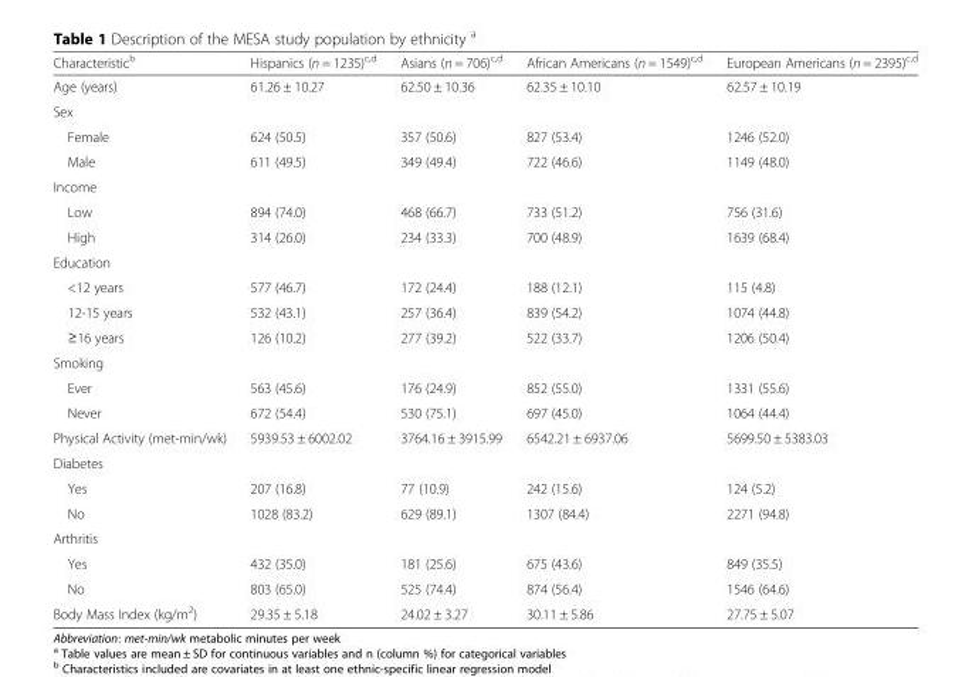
<table><thead><tr><td>Characteristic<sup>b</sup></td><td>Hispanics (n = 1235)<sup>c,d</sup></td><td>Asians (n = 706)<sup>c,d</sup></td><td>African Americans (n = 1549)<sup>c,d</sup></td><td>European Americans (n = 2395)<sup>c,d</sup></td></tr></thead><tbody><tr><td>Age (years)</td><td>61.26 ± 10.27</td><td>62.50 ± 10.36</td><td>62.35 ± 10.10</td><td>62.57 ± 10.19</td></tr><tr><td colspan="5">Sex</td></tr><tr><td>Female</td><td>624 (50.5)</td><td>357 (50.6)</td><td>827 (53.4)</td><td>1246 (52.0)</td></tr><tr><td>Male</td><td>611 (49.5)</td><td>349 (49.4)</td><td>722 (46.6)</td><td>1149 (48.0)</td></tr><tr><td colspan="5">Income</td></tr><tr><td>Low</td><td>894 (74.0)</td><td>468 (66.7)</td><td>733 (51.2)</td><td>756 (31.6)</td></tr><tr><td>High</td><td>314 (26.0)</td><td>234 (33.3)</td><td>700 (48.9)</td><td>1639 (68.4)</td></tr><tr><td colspan="5">Education</td></tr><tr><td>&lt;12 years</td><td>577 (46.7)</td><td>172 (24.4)</td><td>188 (12.1)</td><td>115 (4.8)</td></tr><tr><td>12-15 years</td><td>532 (43.1)</td><td>257 (36.4)</td><td>839 (54.2)</td><td>1074 (44.8)</td></tr><tr><td>≥16 years</td><td>126 (10.2)</td><td>277 (39.2)</td><td>522 (33.7)</td><td>1206 (50.4)</td></tr><tr><td colspan="5">Smoking</td></tr><tr><td>Ever</td><td>563 (45.6)</td><td>176 (24.9)</td><td>852 (55.0)</td><td>1331 (55.6)</td></tr><tr><td>Never</td><td>672 (54.4)</td><td>530 (75.1)</td><td>697 (45.0)</td><td>1064 (44.4)</td></tr><tr><td>Physical Activity (met-min/wk)</td><td>5939.53 ± 6002.02</td><td>3764.16 ± 3915.99</td><td>6542.21 ± 6937.06</td><td>5699.50 ± 5383.03</td></tr><tr><td colspan="5">Diabetes</td></tr><tr><td>Yes</td><td>207 (16.8)</td><td>77 (10.9)</td><td>242 (15.6)</td><td>124 (5.2)</td></tr><tr><td>No</td><td>1028 (83.2)</td><td>629 (89.1)</td><td>1307 (84.4)</td><td>2271 (94.8)</td></tr><tr><td colspan="5">Arthritis</td></tr><tr><td>Yes</td><td>432 (35.0)</td><td>181 (25.6)</td><td>675 (43.6)</td><td>849 (35.5)</td></tr><tr><td>No</td><td>803 (65.0)</td><td>525 (74.4)</td><td>874 (56.4)</td><td>1546 (64.6)</td></tr><tr><td>Body Mass Index (kg/m<sup>2</sup>)</td><td>29.35 ± 5.18</td><td>24.02 ± 3.27</td><td>30.11 ± 5.86</td><td>27.75 ± 5.07</td></tr></tbody></table>